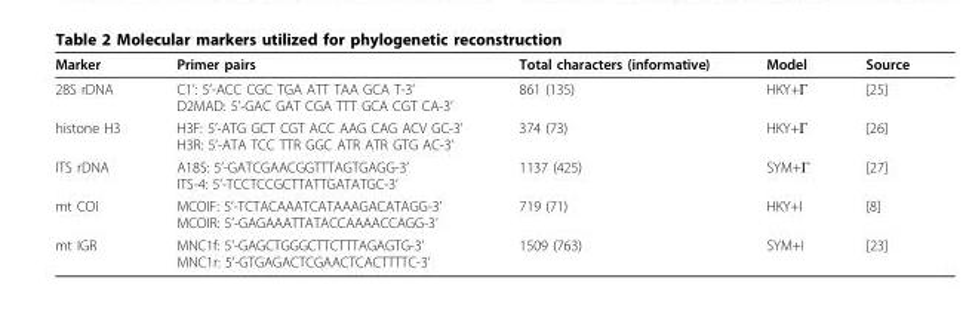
<table><thead><tr><td>Marker</td><td>Primer pairs</td><td>Total characters (informative)</td><td>Model</td><td>Source</td></tr></thead><tbody><tr><td>28S rDNA</td><td>C1’: 5’-ACC CGC TGA ATT TAA GCA T-3’ D2MAD: 5’-GAC GAT CGA TTT GCA CGT CA-3’</td><td>861 (135)</td><td>HKY+Γ</td><td>[25]</td></tr><tr><td>histone H3</td><td>H3F: 5’-ATG GCT CGT ACC AAG CAG ACV GC-3’ H3R: 5’-ATA TCC TTR GGC ATR ATR GTG AC-3’</td><td>374 (73)</td><td>HKY+Γ</td><td>[26]</td></tr><tr><td>ITS rDNA</td><td>A18S: 5’-GATCGAACGGTTTAGTGAGG-3’ ITS-4: 5’-TCCTCCGCTTATTGATATGC-3’</td><td>1137 (425)</td><td>SYM+Γ</td><td>[27]</td></tr><tr><td>mt COI</td><td>MCOIF: 5’-TCTACAAATCATAAAGACATAGG-3’ MCOIR: 5’-GAGAAATTATACCAAAACCAGG-3’</td><td>719 (71)</td><td>HKY+I</td><td>[8]</td></tr><tr><td>mt IGR</td><td>MNC1f: 5’-GAGCTGGGCTTCTTTAGAGTG-3’ MNC1r: 5’-GTGAGACTCGAACTCACTTTTC-3’</td><td>1509 (763)</td><td>SYM+I</td><td>[23]</td></tr></tbody></table>